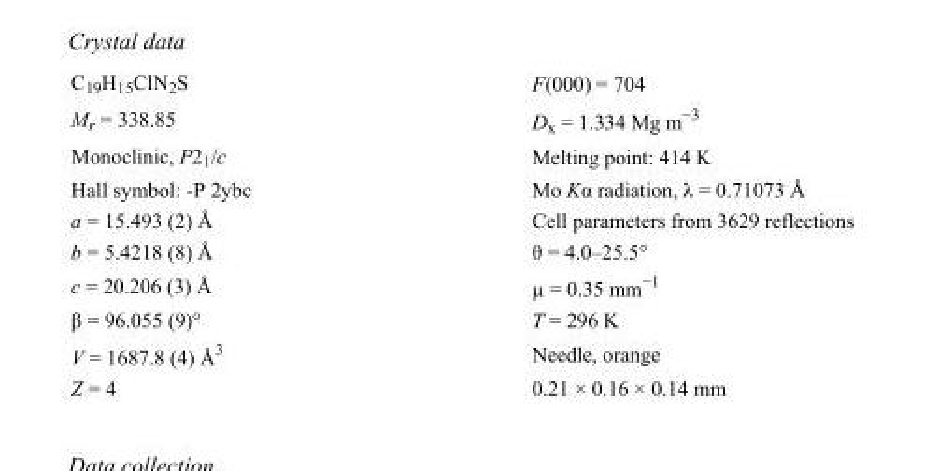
<table><tbody><tr><td>C<sub>19</sub>H<sub>15</sub>ClN<sub>2</sub>S</td><td>F(000) = 704</td></tr><tr><td>M<sub>r</sub> = 338.85</td><td>D<sub>x</sub> = 1.334 Mg m<sup>−3</sup></td></tr><tr><td>Monoclinic, P2<sub>1</sub>/c</td><td>Melting point: 414 K</td></tr><tr><td>Hall symbol: -P 2ybc</td><td>Mo Kα radiation, λ = 0.71073 Å</td></tr><tr><td>a = 15.493 (2) Å</td><td>Cell parameters from 3629 reflections</td></tr><tr><td>b = 5.4218 (8) Å</td><td>θ = 4.0–25.5°</td></tr><tr><td>c = 20.206 (3) Å</td><td>µ = 0.35 mm<sup>−1</sup></td></tr><tr><td>β = 96.055 (9)°</td><td>T = 296 K</td></tr><tr><td>V = 1687.8 (4) Å<sup>3</sup></td><td>Needle, orange</td></tr><tr><td>Z = 4</td><td>0.21 × 0.16 × 0.14 mm</td></tr></tbody></table>